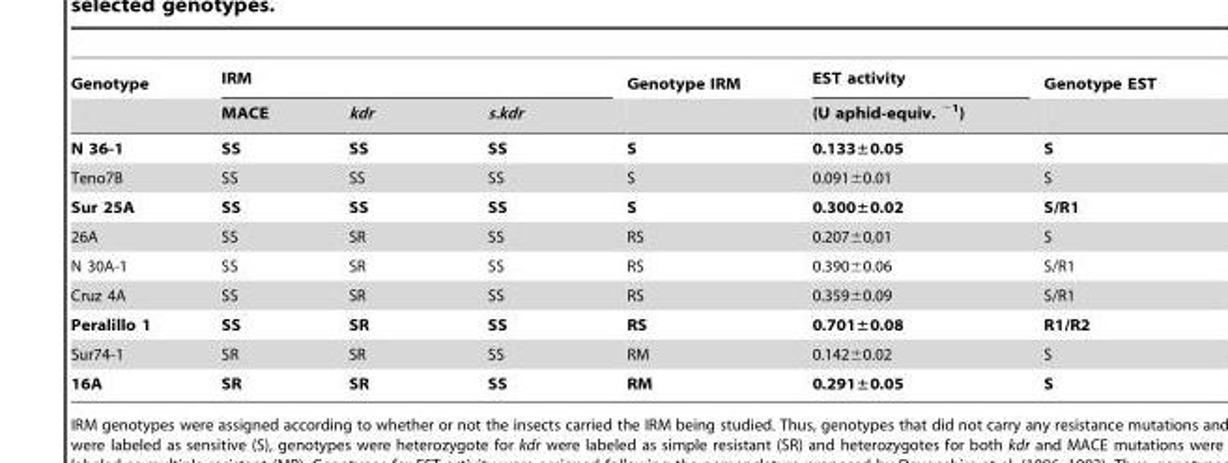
<table><thead><tr><td rowspan="2">Genotype</td><td colspan="3">IRM</td><td rowspan="2">Genotype IRM</td><td rowspan="2">EST activity (U aphid-equiv. <sup>−1</sup>)</td><td rowspan="2">Genotype EST</td></tr><tr><td>MACE</td><td>kdr</td><td>s.kdr</td></tr></thead><tbody><tr><td>N 36-1</td><td>SS</td><td>SS</td><td>SS</td><td>S</td><td>0.133±0.05</td><td>S</td></tr><tr><td>Teno7B</td><td>SS</td><td>SS</td><td>SS</td><td>S</td><td>0.091±0.01</td><td>S</td></tr><tr><td>Sur 25A</td><td>SS</td><td>SS</td><td>SS</td><td>S</td><td>0.300±0.02</td><td>S/R1</td></tr><tr><td>26A</td><td>SS</td><td>SR</td><td>SS</td><td>RS</td><td>0.207±0,01</td><td>S</td></tr><tr><td>N 30A-1</td><td>SS</td><td>SR</td><td>SS</td><td>RS</td><td>0.390±0.06</td><td>S/R1</td></tr><tr><td>Cruz 4A</td><td>SS</td><td>SR</td><td>SS</td><td>RS</td><td>0.359±0.09</td><td>S/R1</td></tr><tr><td>Peralillo 1</td><td>SS</td><td>SR</td><td>SS</td><td>RS</td><td>0.701±0.08</td><td>R1/R2</td></tr><tr><td>Sur74-1</td><td>SR</td><td>SR</td><td>SS</td><td>RM</td><td>0.142±0.02</td><td>S</td></tr><tr><td>16A</td><td>SR</td><td>SR</td><td>SS</td><td>RM</td><td>0.291±0.05</td><td>S</td></tr></tbody></table>